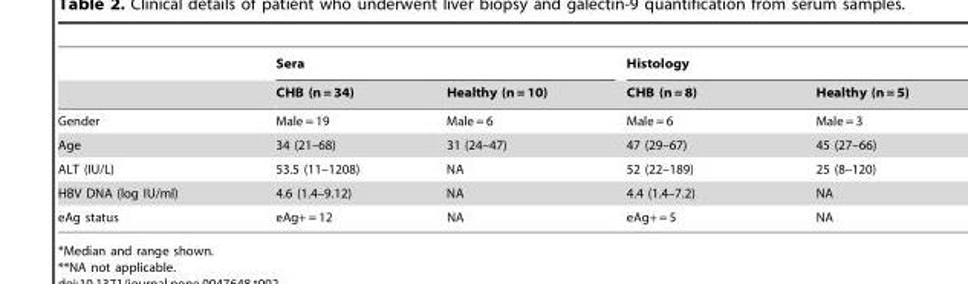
<table><thead><tr><td rowspan="2"></td><td colspan="2">Sera</td><td colspan="2">Histology</td></tr><tr><td>CHB (n = 34)</td><td>Healthy (n = 10)</td><td>CHB (n = 8)</td><td>Healthy (n = 5)</td></tr></thead><tbody><tr><td>Gender</td><td>Male = 19</td><td>Male = 6</td><td>Male = 6</td><td>Male = 3</td></tr><tr><td>Age</td><td>34 (21–68)</td><td>31 (24–47)</td><td>47 (29–67)</td><td>45 (27–66)</td></tr><tr><td>ALT (IU/L)</td><td>53.5 (11–1208)</td><td>NA</td><td>52 (22–189)</td><td>25 (8–120)</td></tr><tr><td>HBV DNA (log IU/ml)</td><td>4.6 (1.4–9.12)</td><td>NA</td><td>4.4 (1.4–7.2)</td><td>NA</td></tr><tr><td>eAg status</td><td>eAg+ = 12</td><td>NA</td><td>eAg+ = 5</td><td>NA</td></tr></tbody></table>